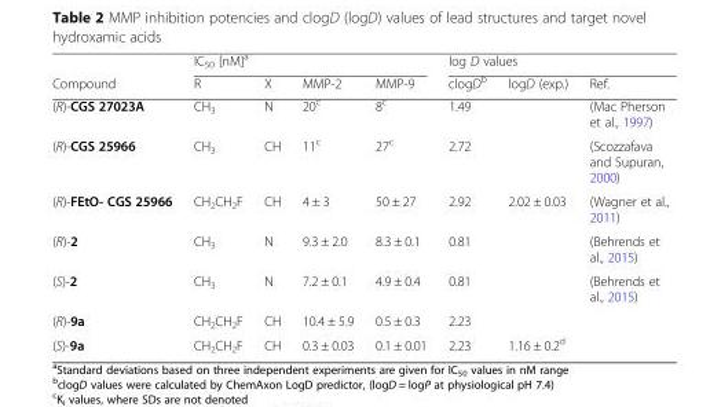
<table><thead><tr><td rowspan="2">Compound</td><td colspan="4">IC<sub>50</sub> [nM]<sup>a</sup></td><td colspan="3">log D values</td></tr><tr><td>R</td><td>X</td><td>MMP-2</td><td>MMP-9</td><td>clogD<sup>b</sup></td><td>logD (exp.)</td><td>Ref.</td></tr></thead><tbody><tr><td>(R)-CGS 27023A</td><td>CH<sub>3</sub></td><td>N</td><td>20<sup>c</sup></td><td>8<sup>c</sup></td><td>1.49</td><td></td><td>(Mac Pherson et al., 1997)</td></tr><tr><td>(R)-CGS 25966</td><td>CH<sub>3</sub></td><td>CH</td><td>11<sup>c</sup></td><td>27<sup>c</sup></td><td>2.72</td><td></td><td>(Scozzafava and Supuran, 2000)</td></tr><tr><td>(R)-FEtO- CGS 25966</td><td>CH<sub>2</sub>CH<sub>2</sub>F</td><td>CH</td><td>4 ± 3</td><td>50 ± 27</td><td>2.92</td><td>2.02 ± 0.03</td><td>(Wagner et al., 2011)</td></tr><tr><td>(R)-2</td><td>CH<sub>3</sub></td><td>N</td><td>9.3 ± 2.0</td><td>8.3 ± 0.1</td><td>0.81</td><td></td><td>(Behrends et al., 2015)</td></tr><tr><td>(S)-2</td><td>CH<sub>3</sub></td><td>N</td><td>7.2 ± 0.1</td><td>4.9 ± 0.4</td><td>0.81</td><td></td><td>(Behrends et al., 2015)</td></tr><tr><td>(R)-9a</td><td>CH<sub>2</sub>CH<sub>2</sub>F</td><td>CH</td><td>10.4 ± 5.9</td><td>0.5 ± 0.3</td><td>2.23</td><td></td><td></td></tr><tr><td>(S)-9a</td><td>CH<sub>2</sub>CH<sub>2</sub>F</td><td>CH</td><td>0.3 ± 0.03</td><td>0.1 ± 0.01</td><td>2.23</td><td>1.16 ± 0.2<sup>d</sup></td><td></td></tr></tbody></table>